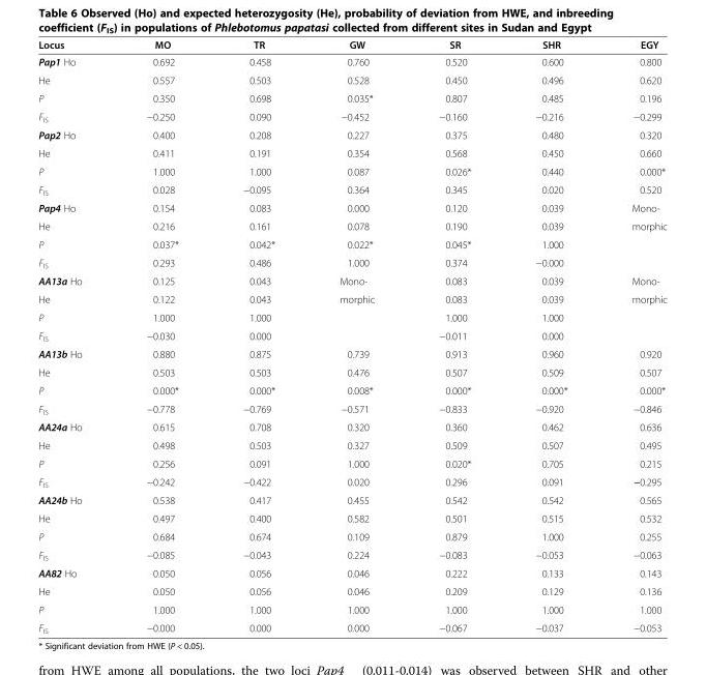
<table><thead><tr><td>Locus</td><td>MO</td><td>TR</td><td>GW</td><td>SR</td><td>SHR</td><td>EGY</td></tr></thead><tbody><tr><td>Pap1 Ho</td><td>0.692</td><td>0.458</td><td>0.760</td><td>0.520</td><td>0.600</td><td>0.800</td></tr><tr><td>He</td><td>0.557</td><td>0.503</td><td>0.528</td><td>0.450</td><td>0.496</td><td>0.620</td></tr><tr><td>P</td><td>0.350</td><td>0.698</td><td>0.035*</td><td>0.807</td><td>0.485</td><td>0.196</td></tr><tr><td>F<sub>IS</sub></td><td>−0.250</td><td>0.090</td><td>−0.452</td><td>−0.160</td><td>−0.216</td><td>−0.299</td></tr><tr><td>Pap2 Ho</td><td>0.400</td><td>0.208</td><td>0.227</td><td>0.375</td><td>0.480</td><td>0.320</td></tr><tr><td>He</td><td>0.411</td><td>0.191</td><td>0.354</td><td>0.568</td><td>0.450</td><td>0.660</td></tr><tr><td>P</td><td>1.000</td><td>1.000</td><td>0.087</td><td>0.026*</td><td>0.440</td><td>0.000*</td></tr><tr><td>F<sub>IS</sub></td><td>0.028</td><td>−0.095</td><td>0.364</td><td>0.345</td><td>0.020</td><td>0.520</td></tr><tr><td>Pap4 Ho</td><td>0.154</td><td>0.083</td><td>0.000</td><td>0.120</td><td>0.039</td><td>Mono-</td></tr><tr><td>He</td><td>0.216</td><td>0.161</td><td>0.078</td><td>0.190</td><td>0.039</td><td>morphic</td></tr><tr><td>P</td><td>0.037*</td><td>0.042*</td><td>0.022*</td><td>0.045*</td><td>1.000</td><td></td></tr><tr><td>F<sub>IS</sub></td><td>0.293</td><td>0.486</td><td>1.000</td><td>0.374</td><td>−0.000</td><td></td></tr><tr><td>AA13a Ho</td><td>0.125</td><td>0.043</td><td>Mono-</td><td>0.083</td><td>0.039</td><td>Mono-</td></tr><tr><td>He</td><td>0.122</td><td>0.043</td><td>morphic</td><td>0.083</td><td>0.039</td><td>morphic</td></tr><tr><td>P</td><td>1.000</td><td>1.000</td><td></td><td>1.000</td><td>1.000</td><td></td></tr><tr><td>F<sub>IS</sub></td><td>−0.030</td><td>0.000</td><td></td><td>−0.011</td><td>0.000</td><td></td></tr><tr><td>AA13b Ho</td><td>0.880</td><td>0.875</td><td>0.739</td><td>0.913</td><td>0.960</td><td>0.920</td></tr><tr><td>He</td><td>0.503</td><td>0.503</td><td>0.476</td><td>0.507</td><td>0.509</td><td>0.507</td></tr><tr><td>P</td><td>0.000*</td><td>0.000*</td><td>0.008*</td><td>0.000*</td><td>0.000*</td><td>0.000*</td></tr><tr><td>F<sub>IS</sub></td><td>−0.778</td><td>−0.769</td><td>−0.571</td><td>−0.833</td><td>−0.920</td><td>−0.846</td></tr><tr><td>AA24a Ho</td><td>0.615</td><td>0.708</td><td>0.320</td><td>0.360</td><td>0.462</td><td>0.636</td></tr><tr><td>He</td><td>0.498</td><td>0.503</td><td>0.327</td><td>0.509</td><td>0.507</td><td>0.495</td></tr><tr><td>P</td><td>0.256</td><td>0.091</td><td>1.000</td><td>0.020*</td><td>0.705</td><td>0.215</td></tr><tr><td>F<sub>IS</sub></td><td>−0.242</td><td>−0.422</td><td>0.020</td><td>0.296</td><td>0.091</td><td>−0.295</td></tr><tr><td>AA24b Ho</td><td>0.538</td><td>0.417</td><td>0.455</td><td>0.542</td><td>0.542</td><td>0.565</td></tr><tr><td>He</td><td>0.497</td><td>0.400</td><td>0.582</td><td>0.501</td><td>0.515</td><td>0.532</td></tr><tr><td>P</td><td>0.684</td><td>0.674</td><td>0.109</td><td>0.879</td><td>1.000</td><td>0.255</td></tr><tr><td>F<sub>IS</sub></td><td>−0.085</td><td>−0.043</td><td>0.224</td><td>−0.083</td><td>−0.053</td><td>−0.063</td></tr><tr><td>AA82 Ho</td><td>0.050</td><td>0.056</td><td>0.046</td><td>0.222</td><td>0.133</td><td>0.143</td></tr><tr><td>He</td><td>0.050</td><td>0.056</td><td>0.046</td><td>0.209</td><td>0.129</td><td>0.136</td></tr><tr><td>P</td><td>1.000</td><td>1.000</td><td>1.000</td><td>1.000</td><td>1.000</td><td>1.000</td></tr><tr><td>F<sub>IS</sub></td><td>−0.000</td><td>0.000</td><td>0.000</td><td>−0.067</td><td>−0.037</td><td>−0.053</td></tr></tbody></table>